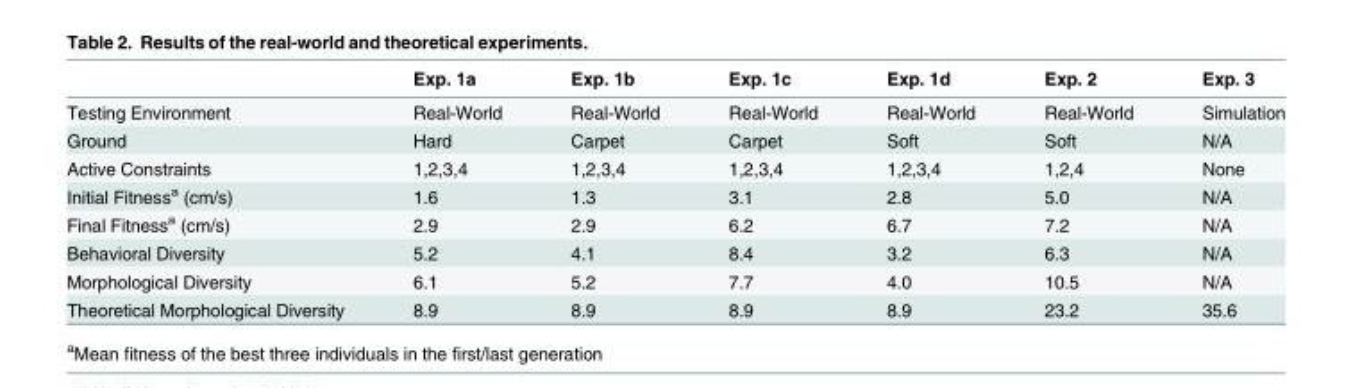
<table><thead><tr><td></td><td>Exp. 1a</td><td>Exp. 1b</td><td>Exp. 1c</td><td>Exp. 1d</td><td>Exp. 2</td><td>Exp. 3</td></tr></thead><tbody><tr><td>Testing Environment</td><td>Real-World</td><td>Real-World</td><td>Real-World</td><td>Real-World</td><td>Real-World</td><td>Simulation</td></tr><tr><td>Ground</td><td>Hard</td><td>Carpet</td><td>Carpet</td><td>Soft</td><td>Soft</td><td>N/A</td></tr><tr><td>Active Constraints</td><td>1,2,3,4</td><td>1,2,3,4</td><td>1,2,3,4</td><td>1,2,3,4</td><td>1,2,4</td><td>None</td></tr><tr><td>Initial Fitness<sup>a</sup> (cm/s)</td><td>1.6</td><td>1.3</td><td>3.1</td><td>2.8</td><td>5.0</td><td>N/A</td></tr><tr><td>Final Fitness<sup>a</sup> (cm/s)</td><td>2.9</td><td>2.9</td><td>6.2</td><td>6.7</td><td>7.2</td><td>N/A</td></tr><tr><td>Behavioral Diversity</td><td>5.2</td><td>4.1</td><td>8.4</td><td>3.2</td><td>6.3</td><td>N/A</td></tr><tr><td>Morphological Diversity</td><td>6.1</td><td>5.2</td><td>7.7</td><td>4.0</td><td>10.5</td><td>N/A</td></tr><tr><td>Theoretical Morphological Diversity</td><td>8.9</td><td>8.9</td><td>8.9</td><td>8.9</td><td>23.2</td><td>35.6</td></tr></tbody></table>